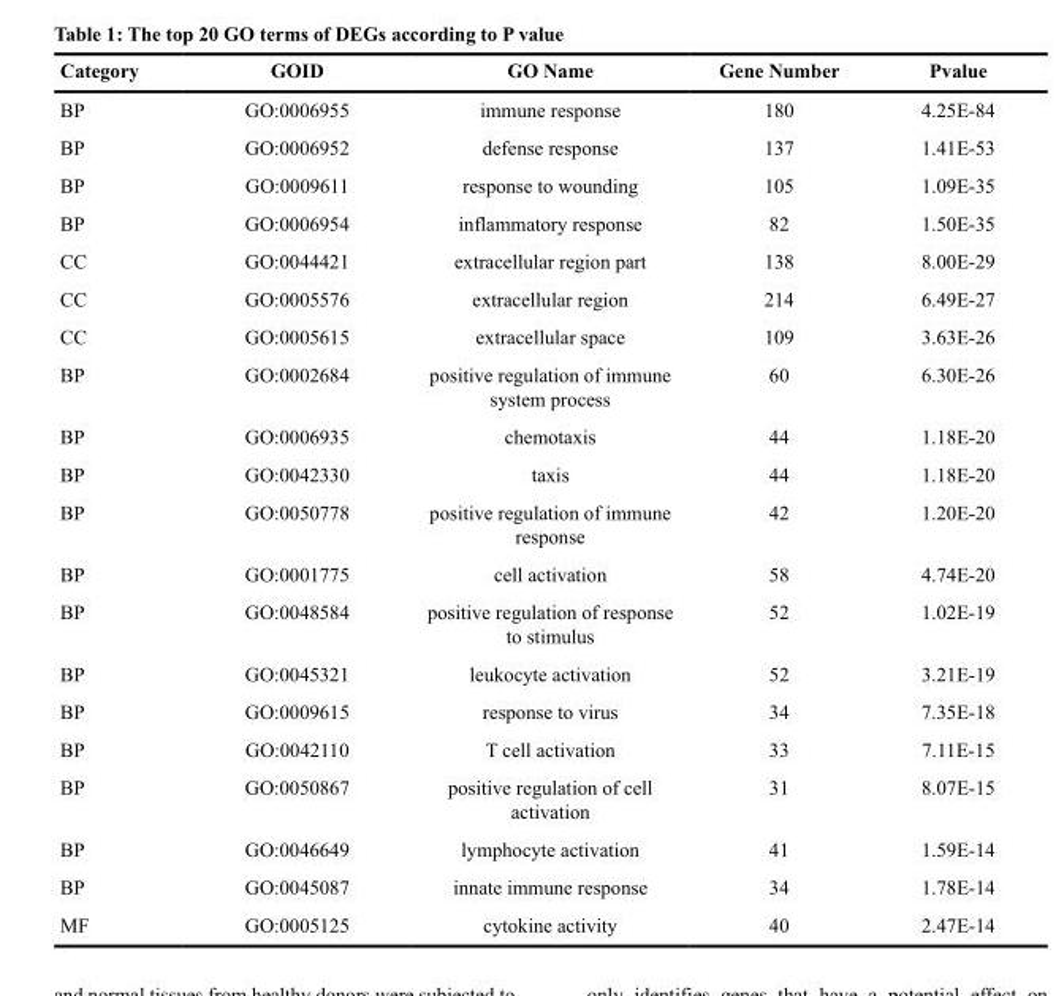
<table><thead><tr><td>Category</td><td>GOID</td><td>GO Name</td><td>Gene Number</td><td>Pvalue</td></tr></thead><tbody><tr><td>BP</td><td>GO:0006955</td><td>immune response</td><td>180</td><td>4.25E-84</td></tr><tr><td>BP</td><td>GO:0006952</td><td>defense response</td><td>137</td><td>1.41E-53</td></tr><tr><td>BP</td><td>GO:0009611</td><td>response to wounding</td><td>105</td><td>1.09E-35</td></tr><tr><td>BP</td><td>GO:0006954</td><td>inflammatory response</td><td>82</td><td>1.50E-35</td></tr><tr><td>CC</td><td>GO:0044421</td><td>extracellular region part</td><td>138</td><td>8.00E-29</td></tr><tr><td>CC</td><td>GO:0005576</td><td>extracellular region</td><td>214</td><td>6.49E-27</td></tr><tr><td>CC</td><td>GO:0005615</td><td>extracellular space</td><td>109</td><td>3.63E-26</td></tr><tr><td>BP</td><td>GO:0002684</td><td>positive regulation of immune system process</td><td>60</td><td>6.30E-26</td></tr><tr><td>BP</td><td>GO:0006935</td><td>chemotaxis</td><td>44</td><td>1.18E-20</td></tr><tr><td>BP</td><td>GO:0042330</td><td>taxis</td><td>44</td><td>1.18E-20</td></tr><tr><td>BP</td><td>GO:0050778</td><td>positive regulation of immune response</td><td>42</td><td>1.20E-20</td></tr><tr><td>BP</td><td>GO:0001775</td><td>cell activation</td><td>58</td><td>4.74E-20</td></tr><tr><td>BP</td><td>GO:0048584</td><td>positive regulation of response to stimulus</td><td>52</td><td>1.02E-19</td></tr><tr><td>BP</td><td>GO:0045321</td><td>leukocyte activation</td><td>52</td><td>3.21E-19</td></tr><tr><td>BP</td><td>GO:0009615</td><td>response to virus</td><td>34</td><td>7.35E-18</td></tr><tr><td>BP</td><td>GO:0042110</td><td>T cell activation</td><td>33</td><td>7.11E-15</td></tr><tr><td>BP</td><td>GO:0050867</td><td>positive regulation of cell activation</td><td>31</td><td>8.07E-15</td></tr><tr><td>BP</td><td>GO:0046649</td><td>lymphocyte activation</td><td>41</td><td>1.59E-14</td></tr><tr><td>BP</td><td>GO:0045087</td><td>innate immune response</td><td>34</td><td>1.78E-14</td></tr><tr><td>MF</td><td>GO:0005125</td><td>cytokine activity</td><td>40</td><td>2.47E-14</td></tr></tbody></table>